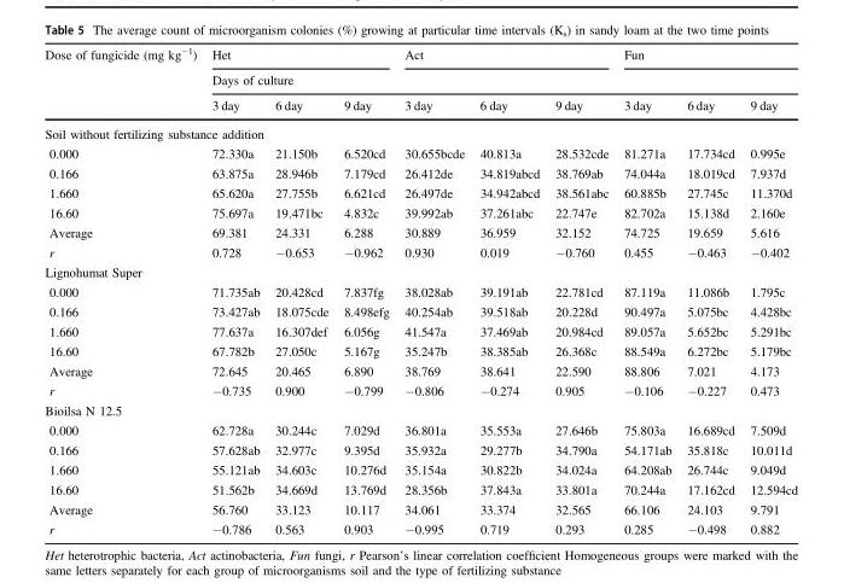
<table><thead><tr><td rowspan="3">Dose of fungicide (mg kg<sup>−1</sup>)</td><td colspan="3">Het</td><td colspan="3">Act</td><td colspan="3">Fun</td></tr><tr><td colspan="9">Days of culture</td></tr><tr><td>3 day</td><td>6 day</td><td>9 day</td><td>3 day</td><td>6 day</td><td>9 day</td><td>3 day</td><td>6 day</td><td>9 day</td></tr></thead><tbody><tr><td colspan="10">Soil without fertilizing substance addition</td></tr><tr><td>0.000</td><td>72.330a</td><td>21.150b</td><td>6.520cd</td><td>30.655bcde</td><td>40.813a</td><td>28.532cde</td><td>81.271a</td><td>17.734cd</td><td>0.995e</td></tr><tr><td>0.166</td><td>63.875a</td><td>28.946b</td><td>7.179cd</td><td>26.412de</td><td>34.819abcd</td><td>38.769ab</td><td>74.044a</td><td>18.019cd</td><td>7.937d</td></tr><tr><td>1.660</td><td>65.620a</td><td>27.755b</td><td>6.621cd</td><td>26.497de</td><td>34.942abcd</td><td>38.561abc</td><td>60.885b</td><td>27.745c</td><td>11.370d</td></tr><tr><td>16.60</td><td>75.697a</td><td>19.471bc</td><td>4.832c</td><td>39.992ab</td><td>37.261abc</td><td>22.747e</td><td>82.702a</td><td>15.138d</td><td>2.160e</td></tr><tr><td>Average</td><td>69.381</td><td>24.331</td><td>6.288</td><td>30.889</td><td>36.959</td><td>32.152</td><td>74.725</td><td>19.659</td><td>5.616</td></tr><tr><td>r</td><td>0.728</td><td>−0.653</td><td>−0.962</td><td>0.930</td><td>0.019</td><td>−0.760</td><td>0.455</td><td>−0.463</td><td>−0.402</td></tr><tr><td colspan="10">Lignohumat Super</td></tr><tr><td>0.000</td><td>71.735ab</td><td>20.428cd</td><td>7.837fg</td><td>38.028ab</td><td>39.191ab</td><td>22.781cd</td><td>87.119a</td><td>11.086b</td><td>1.795c</td></tr><tr><td>0.166</td><td>73.427ab</td><td>18.075cde</td><td>8.498efg</td><td>40.254ab</td><td>39.518ab</td><td>20.228d</td><td>90.497a</td><td>5.075bc</td><td>4.428bc</td></tr><tr><td>1.660</td><td>77.637a</td><td>16.307def</td><td>6.056g</td><td>41.547a</td><td>37.469ab</td><td>20.984cd</td><td>89.057a</td><td>5.652bc</td><td>5.291bc</td></tr><tr><td>16.60</td><td>67.782b</td><td>27.050c</td><td>5.167g</td><td>35.247b</td><td>38.385ab</td><td>26.368c</td><td>88.549a</td><td>6.272bc</td><td>5.179bc</td></tr><tr><td>Average</td><td>72.645</td><td>20.465</td><td>6.890</td><td>38.769</td><td>38.641</td><td>22.590</td><td>88.806</td><td>7.021</td><td>4.173</td></tr><tr><td>r</td><td>−0.735</td><td>0.900</td><td>−0.799</td><td>−0.806</td><td>−0.274</td><td>0.905</td><td>−0.106</td><td>−0.227</td><td>0.473</td></tr><tr><td colspan="10">Bioilsa N 12.5</td></tr><tr><td>0.000</td><td>62.728a</td><td>30.244c</td><td>7.029d</td><td>36.801a</td><td>35.553a</td><td>27.646b</td><td>75.803a</td><td>16.689cd</td><td>7.509d</td></tr><tr><td>0.166</td><td>57.628ab</td><td>32.977c</td><td>9.395d</td><td>35.932a</td><td>29.277b</td><td>34.790a</td><td>54.171ab</td><td>35.818c</td><td>10.011d</td></tr><tr><td>1.660</td><td>55.121ab</td><td>34.603c</td><td>10.276d</td><td>35.154a</td><td>30.822b</td><td>34.024a</td><td>64.208ab</td><td>26.744c</td><td>9.049d</td></tr><tr><td>16.60</td><td>51.562b</td><td>34.669d</td><td>13.769d</td><td>28.356b</td><td>37.843a</td><td>33.801a</td><td>70.244a</td><td>17.162cd</td><td>12.594cd</td></tr><tr><td>Average</td><td>56.760</td><td>33.123</td><td>10.117</td><td>34.061</td><td>33.374</td><td>32.565</td><td>66.106</td><td>24.103</td><td>9.791</td></tr><tr><td>r</td><td>−0.786</td><td>0.563</td><td>0.903</td><td>−0.995</td><td>0.719</td><td>0.293</td><td>0.285</td><td>−0.498</td><td>0.882</td></tr></tbody></table>